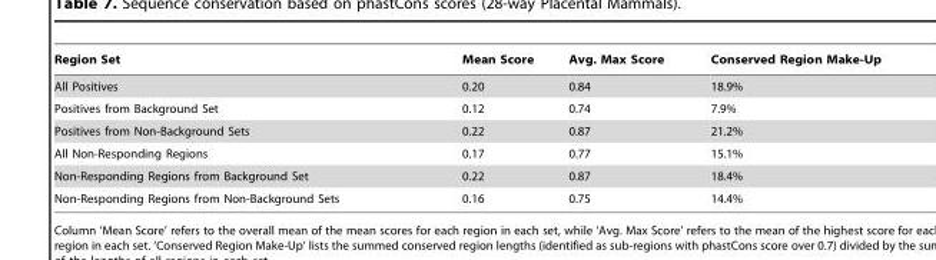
<table><thead><tr><td>Region Set</td><td>Mean Score</td><td>Avg. Max Score</td><td>Conserved Region Make-Up</td></tr></thead><tbody><tr><td>All Positives</td><td>0.20</td><td>0.84</td><td>18.9%</td></tr><tr><td>Positives from Background Set</td><td>0.12</td><td>0.74</td><td>7.9%</td></tr><tr><td>Positives from Non-Background Sets</td><td>0.22</td><td>0.87</td><td>21.2%</td></tr><tr><td>All Non-Responding Regions</td><td>0.17</td><td>0.77</td><td>15.1%</td></tr><tr><td>Non-Responding Regions from Background Set</td><td>0.22</td><td>0.87</td><td>18.4%</td></tr><tr><td>Non-Responding Regions from Non-Background Sets</td><td>0.16</td><td>0.75</td><td>14.4%</td></tr></tbody></table>